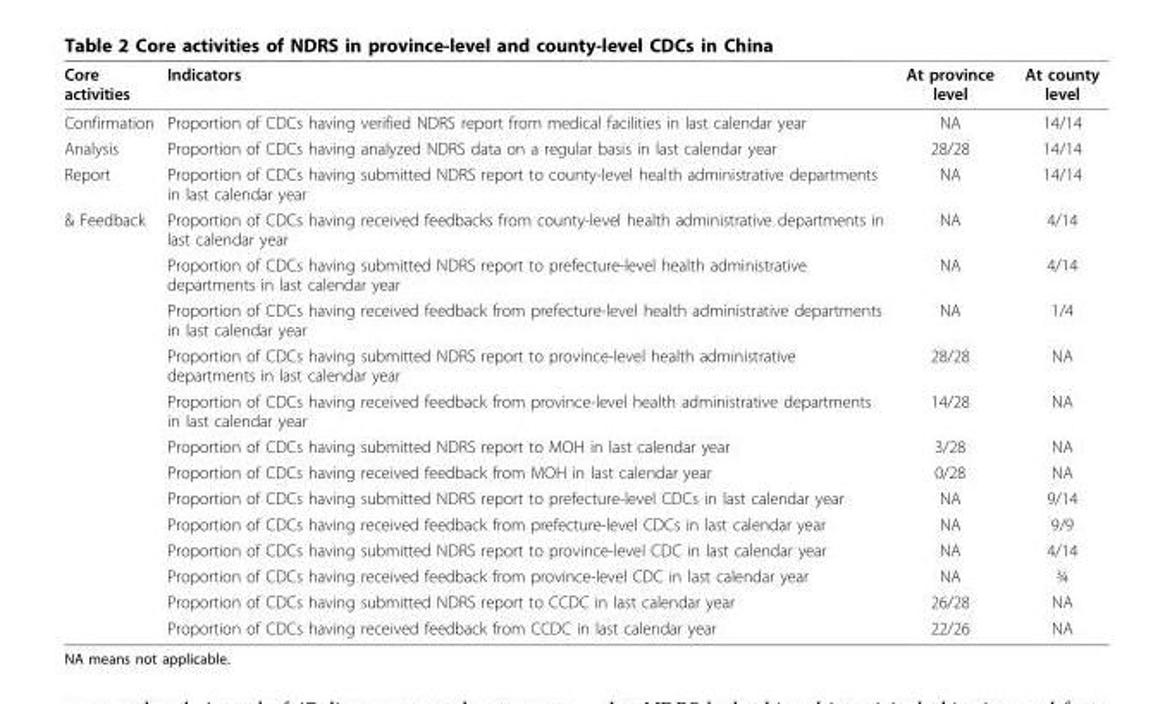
<table><thead><tr><td>Core activities</td><td>Indicators</td><td>At province level</td><td>At county level</td></tr></thead><tbody><tr><td>Confirmation</td><td>Proportion of CDCs having verified NDRS report from medical facilities in last calendar year</td><td>NA</td><td>14/14</td></tr><tr><td>Analysis</td><td>Proportion of CDCs having analyzed NDRS data on a regular basis in last calendar year</td><td>28/28</td><td>14/14</td></tr><tr><td>Report</td><td>Proportion of CDCs having submitted NDRS report to county-level health administrative departments in last calendar year</td><td>NA</td><td>14/14</td></tr><tr><td rowspan="13">&amp; Feedback</td><td>Proportion of CDCs having received feedbacks from county-level health administrative departments in last calendar year</td><td>NA</td><td>4/14</td></tr><tr><td>Proportion of CDCs having submitted NDRS report to prefecture-level health administrative departments in last calendar year</td><td>NA</td><td>4/14</td></tr><tr><td>Proportion of CDCs having received feedback from prefecture-level health administrative departments in last calendar year</td><td>NA</td><td>1/4</td></tr><tr><td>Proportion of CDCs having submitted NDRS report to province-level health administrative departments in last calendar year</td><td>28/28</td><td>NA</td></tr><tr><td>Proportion of CDCs having received feedback from province-level health administrative departments in last calendar year</td><td>14/28</td><td>NA</td></tr><tr><td>Proportion of CDCs having submitted NDRS report to MOH in last calendar year</td><td>3/28</td><td>NA</td></tr><tr><td>Proportion of CDCs having received feedback from MOH in last calendar year</td><td>0/28</td><td>NA</td></tr><tr><td>Proportion of CDCs having submitted NDRS report to prefecture-level CDCs in last calendar year</td><td>NA</td><td>9/14</td></tr><tr><td>Proportion of CDCs having received feedback from prefecture-level CDCs in last calendar year</td><td>NA</td><td>9/9</td></tr><tr><td>Proportion of CDCs having submitted NDRS report to province-level CDC in last calendar year</td><td>NA</td><td>4/14</td></tr><tr><td>Proportion of CDCs having received feedback from province-level CDC in last calendar year</td><td>NA</td><td>¾</td></tr><tr><td>Proportion of CDCs having submitted NDRS report to CCDC in last calendar year</td><td>26/28</td><td>NA</td></tr><tr><td>Proportion of CDCs having received feedback from CCDC in last calendar year</td><td>22/26</td><td>NA</td></tr></tbody></table>